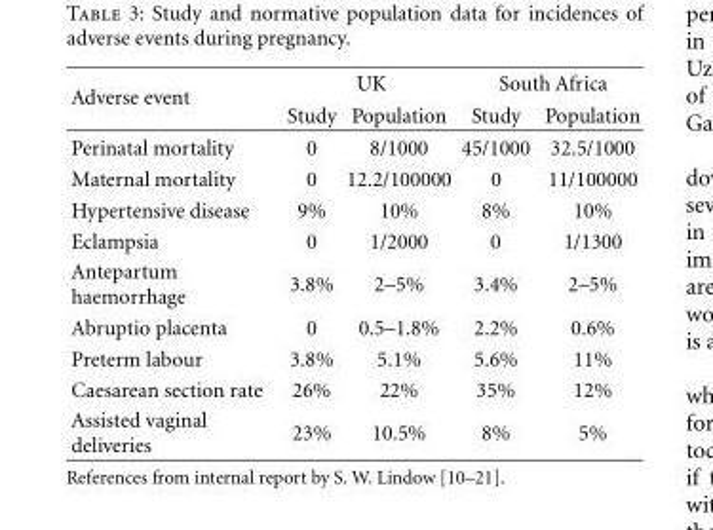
<table><thead><tr><td rowspan="2">Adverse event</td><td colspan="2">UK</td><td colspan="2">South Africa</td></tr><tr><td>Study</td><td>Population</td><td>Study</td><td>Population</td></tr></thead><tbody><tr><td>Perinatal mortality</td><td>0</td><td>8/1000</td><td>45/1000</td><td>32.5/1000</td></tr><tr><td>Maternal mortality</td><td>0</td><td>12.2/100000</td><td>0</td><td>11/100000</td></tr><tr><td>Hypertensive disease</td><td>9%</td><td>10%</td><td>8%</td><td>10%</td></tr><tr><td>Eclampsia</td><td>0</td><td>1/2000</td><td>0</td><td>1/1300</td></tr><tr><td>Antepartum haemorrhage</td><td>3.8%</td><td>2–5%</td><td>3.4%</td><td>2–5%</td></tr><tr><td>Abruptio placenta</td><td>0</td><td>0.5–1.8%</td><td>2.2%</td><td>0.6%</td></tr><tr><td>Preterm labour</td><td>3.8%</td><td>5.1%</td><td>5.6%</td><td>11%</td></tr><tr><td>Caesarean section rate</td><td>26%</td><td>22%</td><td>35%</td><td>12%</td></tr><tr><td>Assisted vaginal deliveries</td><td>23%</td><td>10.5%</td><td>8%</td><td>5%</td></tr></tbody></table>